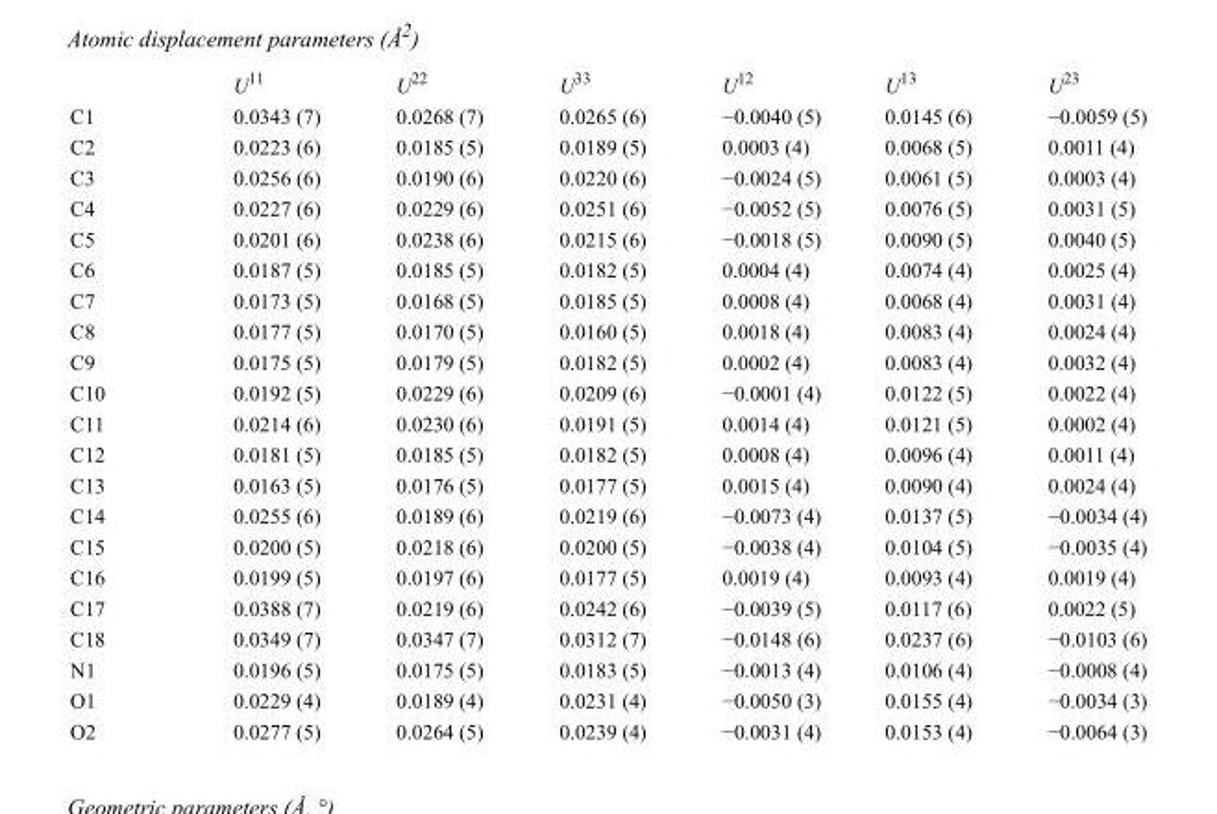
<table><thead><tr><td></td><td>U<sup>11</sup></td><td>U<sup>22</sup></td><td>U<sup>33</sup></td><td>U<sup>12</sup></td><td>U<sup>13</sup></td><td>U<sup>23</sup></td></tr></thead><tbody><tr><td>C1</td><td>0.0343 (7)</td><td>0.0268 (7)</td><td>0.0265 (6)</td><td>−0.0040 (5)</td><td>0.0145 (6)</td><td>−0.0059 (5)</td></tr><tr><td>C2</td><td>0.0223 (6)</td><td>0.0185 (5)</td><td>0.0189 (5)</td><td>0.0003 (4)</td><td>0.0068 (5)</td><td>0.0011 (4)</td></tr><tr><td>C3</td><td>0.0256 (6)</td><td>0.0190 (6)</td><td>0.0220 (6)</td><td>−0.0024 (5)</td><td>0.0061 (5)</td><td>0.0003 (4)</td></tr><tr><td>C4</td><td>0.0227 (6)</td><td>0.0229 (6)</td><td>0.0251 (6)</td><td>−0.0052 (5)</td><td>0.0076 (5)</td><td>0.0031 (5)</td></tr><tr><td>C5</td><td>0.0201 (6)</td><td>0.0238 (6)</td><td>0.0215 (6)</td><td>−0.0018 (5)</td><td>0.0090 (5)</td><td>0.0040 (5)</td></tr><tr><td>C6</td><td>0.0187 (5)</td><td>0.0185 (5)</td><td>0.0182 (5)</td><td>0.0004 (4)</td><td>0.0074 (4)</td><td>0.0025 (4)</td></tr><tr><td>C7</td><td>0.0173 (5)</td><td>0.0168 (5)</td><td>0.0185 (5)</td><td>0.0008 (4)</td><td>0.0068 (4)</td><td>0.0031 (4)</td></tr><tr><td>C8</td><td>0.0177 (5)</td><td>0.0170 (5)</td><td>0.0160 (5)</td><td>0.0018 (4)</td><td>0.0083 (4)</td><td>0.0024 (4)</td></tr><tr><td>C9</td><td>0.0175 (5)</td><td>0.0179 (5)</td><td>0.0182 (5)</td><td>0.0002 (4)</td><td>0.0083 (4)</td><td>0.0032 (4)</td></tr><tr><td>C10</td><td>0.0192 (5)</td><td>0.0229 (6)</td><td>0.0209 (6)</td><td>−0.0001 (4)</td><td>0.0122 (5)</td><td>0.0022 (4)</td></tr><tr><td>C11</td><td>0.0214 (6)</td><td>0.0230 (6)</td><td>0.0191 (5)</td><td>0.0014 (4)</td><td>0.0121 (5)</td><td>0.0002 (4)</td></tr><tr><td>C12</td><td>0.0181 (5)</td><td>0.0185 (5)</td><td>0.0182 (5)</td><td>0.0008 (4)</td><td>0.0096 (4)</td><td>0.0011 (4)</td></tr><tr><td>C13</td><td>0.0163 (5)</td><td>0.0176 (5)</td><td>0.0177 (5)</td><td>0.0015 (4)</td><td>0.0090 (4)</td><td>0.0024 (4)</td></tr><tr><td>C14</td><td>0.0255 (6)</td><td>0.0189 (6)</td><td>0.0219 (6)</td><td>−0.0073 (4)</td><td>0.0137 (5)</td><td>−0.0034 (4)</td></tr><tr><td>C15</td><td>0.0200 (5)</td><td>0.0218 (6)</td><td>0.0200 (5)</td><td>−0.0038 (4)</td><td>0.0104 (5)</td><td>−0.0035 (4)</td></tr><tr><td>C16</td><td>0.0199 (5)</td><td>0.0197 (6)</td><td>0.0177 (5)</td><td>0.0019 (4)</td><td>0.0093 (4)</td><td>0.0019 (4)</td></tr><tr><td>C17</td><td>0.0388 (7)</td><td>0.0219 (6)</td><td>0.0242 (6)</td><td>−0.0039 (5)</td><td>0.0117 (6)</td><td>0.0022 (5)</td></tr><tr><td>C18</td><td>0.0349 (7)</td><td>0.0347 (7)</td><td>0.0312 (7)</td><td>−0.0148 (6)</td><td>0.0237 (6)</td><td>−0.0103 (6)</td></tr><tr><td>N1</td><td>0.0196 (5)</td><td>0.0175 (5)</td><td>0.0183 (5)</td><td>−0.0013 (4)</td><td>0.0106 (4)</td><td>−0.0008 (4)</td></tr><tr><td>O1</td><td>0.0229 (4)</td><td>0.0189 (4)</td><td>0.0231 (4)</td><td>−0.0050 (3)</td><td>0.0155 (4)</td><td>−0.0034 (3)</td></tr><tr><td>O2</td><td>0.0277 (5)</td><td>0.0264 (5)</td><td>0.0239 (4)</td><td>−0.0031 (4)</td><td>0.0153 (4)</td><td>−0.0064 (3)</td></tr></tbody></table>